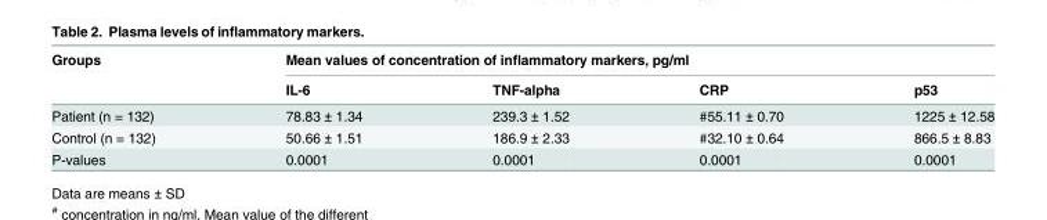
<table><thead><tr><td rowspan="2">Groups</td><td colspan="4">Mean values of concentration of inflammatory markers, pg/ml</td></tr><tr><td>IL-6</td><td>TNF-alpha</td><td>CRP</td><td>p53</td></tr></thead><tbody><tr><td>Patient (n = 132)</td><td>78.83 ± 1.34</td><td>239.3 ± 1.52</td><td>#55.11 ± 0.70</td><td>1225 ± 12.58</td></tr><tr><td>Control (n = 132)</td><td>50.66 ± 1.51</td><td>186.9 ± 2.33</td><td>#32.10 ± 0.64</td><td>866.5 ± 8.83</td></tr><tr><td>P-values</td><td>0.0001</td><td>0.0001</td><td>0.0001</td><td>0.0001</td></tr></tbody></table>